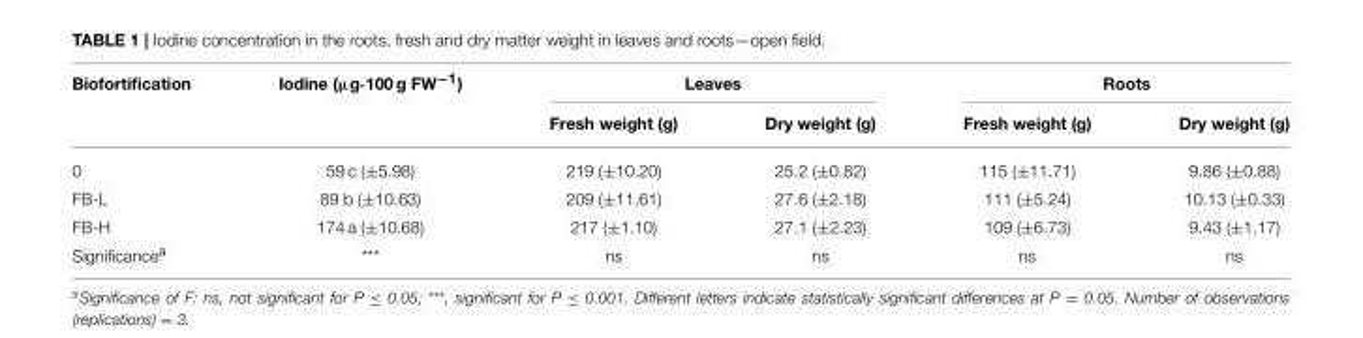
<table><thead><tr><td rowspan="2">Biofortification</td><td rowspan="2">Iodine (µg·100 g FW<sup>−1</sup>)</td><td colspan="2">Leaves</td><td colspan="2">Roots</td></tr><tr><td>Fresh weight (g)</td><td>Dry weight (g)</td><td>Fresh weight (g)</td><td>Dry weight (g)</td></tr></thead><tbody><tr><td>0</td><td>59 c (±5.98)</td><td>219 (±10.20)</td><td>25.2 (±0.82)</td><td>115 (±11.71)</td><td>9.86 (±0.88)</td></tr><tr><td>FB-L</td><td>89 b (±10.63)</td><td>209 (±11.61)</td><td>27.6 (±2.18)</td><td>111 (±5.24)</td><td>10.13 (±0.33)</td></tr><tr><td>FB-H</td><td>174 a (±10.68)</td><td>217 (±1.10)</td><td>27.1 (±2.23)</td><td>109 (±6.73)</td><td>9.43 (±1.17)</td></tr><tr><td>Significance<sup>a</sup></td><td>***</td><td>ns</td><td>ns</td><td>ns</td><td>ns</td></tr></tbody></table>